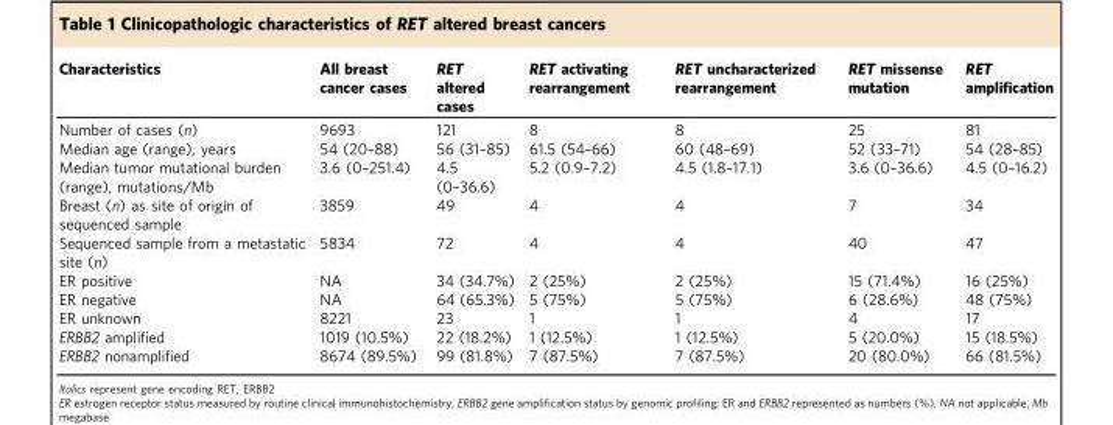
<table><thead><tr><td>Characteristics</td><td>All breast cancer cases</td><td>RET altered cases</td><td>RET activating rearrangement</td><td>RET uncharacterized rearrangement</td><td>RET missense mutation</td><td>RET amplification</td></tr></thead><tbody><tr><td>Number of cases (n)</td><td>9693</td><td>121</td><td>8</td><td>8</td><td>25</td><td>81</td></tr><tr><td>Median age (range), years</td><td>54 (20–88)</td><td>56 (31–85)</td><td>61.5 (54–66)</td><td>60 (48–69)</td><td>52 (33–71)</td><td>54 (28–85)</td></tr><tr><td>Median tumor mutational burden (range), mutations/Mb</td><td>3.6 (0–251.4)</td><td>4.5 (0–36.6)</td><td>5.2 (0.9–7.2)</td><td>4.5 (1.8–17.1)</td><td>3.6 (0–36.6)</td><td>4.5 (0–16.2)</td></tr><tr><td>Breast (n) as site of origin of sequenced sample</td><td>3859</td><td>49</td><td>4</td><td>4</td><td>7</td><td>34</td></tr><tr><td>Sequenced sample from a metastatic site (n)</td><td>5834</td><td>72</td><td>4</td><td>4</td><td>40</td><td>47</td></tr><tr><td>ER positive</td><td>NA</td><td>34 (34.7%)</td><td>2 (25%)</td><td>2 (25%)</td><td>15 (71.4%)</td><td>16 (25%)</td></tr><tr><td>ER negative</td><td>NA</td><td>64 (65.3%)</td><td>5 (75%)</td><td>5 (75%)</td><td>6 (28.6%)</td><td>48 (75%)</td></tr><tr><td>ER unknown</td><td>8221</td><td>23</td><td>1</td><td>1</td><td>4</td><td>17</td></tr><tr><td>ERBB2 amplified</td><td>1019 (10.5%)</td><td>22 (18.2%)</td><td>1 (12.5%)</td><td>1 (12.5%)</td><td>5 (20.0%)</td><td>15 (18.5%)</td></tr><tr><td>ERBB2 nonamplified</td><td>8674 (89.5%)</td><td>99 (81.8%)</td><td>7 (87.5%)</td><td>7 (87.5%)</td><td>20 (80.0%)</td><td>66 (81.5%)</td></tr></tbody></table>